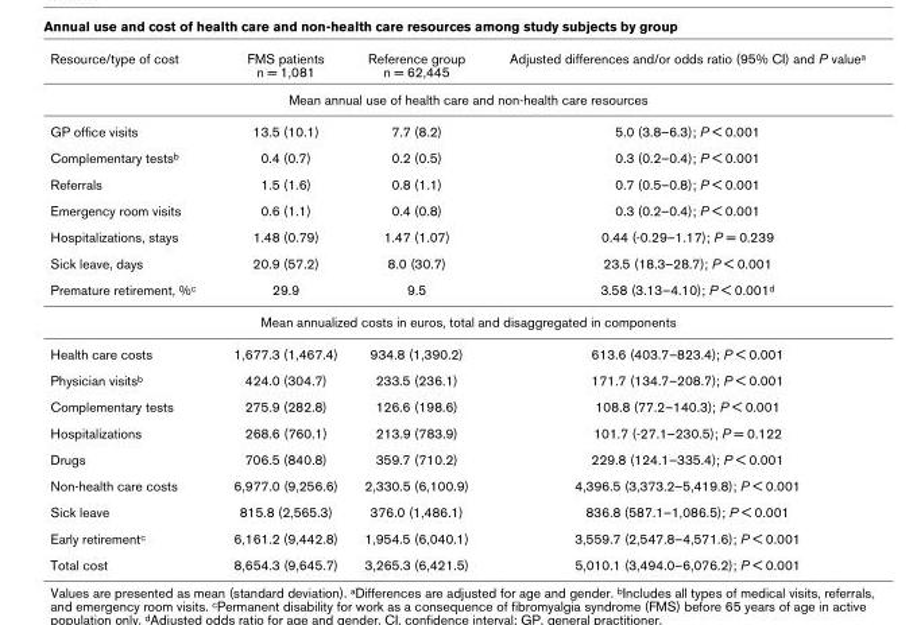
<table><thead><tr><td>Resource/type of cost</td><td>FMS patients n = 1,081</td><td>Reference group n = 62,445</td><td>Adjusted differences and/or odds ratio (95% CI) and P value<sup>a</sup></td></tr></thead><tbody><tr><td colspan="4">Mean annual use of health care and non-health care resources</td></tr><tr><td>GP office visits</td><td>13.5 (10.1)</td><td>7.7 (8.2)</td><td>5.0 (3.8–6.3); P &lt; 0.001</td></tr><tr><td>Complementary tests<sup>b</sup></td><td>0.4 (0.7)</td><td>0.2 (0.5)</td><td>0.3 (0.2–0.4); P &lt; 0.001</td></tr><tr><td>Referrals</td><td>1.5 (1.6)</td><td>0.8 (1.1)</td><td>0.7 (0.5–0.8); P &lt; 0.001</td></tr><tr><td>Emergency room visits</td><td>0.6 (1.1)</td><td>0.4 (0.8)</td><td>0.3 (0.2–0.4); P &lt; 0.001</td></tr><tr><td>Hospitalizations, stays</td><td>1.48 (0.79)</td><td>1.47 (1.07)</td><td>0.44 (-0.29–1.17); P = 0.239</td></tr><tr><td>Sick leave, days</td><td>20.9 (57.2)</td><td>8.0 (30.7)</td><td>23.5 (18.3–28.7); P &lt; 0.001</td></tr><tr><td>Premature retirement, %<sup>c</sup></td><td>29.9</td><td>9.5</td><td>3.58 (3.13–4.10); P &lt; 0.001<sup>d</sup></td></tr><tr><td colspan="4">Mean annualized costs in euros, total and disaggregated in components</td></tr><tr><td>Health care costs</td><td>1,677.3 (1,467.4)</td><td>934.8 (1,390.2)</td><td>613.6 (403.7–823.4); P &lt; 0.001</td></tr><tr><td>Physician visits<sup>b</sup></td><td>424.0 (304.7)</td><td>233.5 (236.1)</td><td>171.7 (134.7–208.7); P &lt; 0.001</td></tr><tr><td>Complementary tests</td><td>275.9 (282.8)</td><td>126.6 (198.6)</td><td>108.8 (77.2–140.3); P &lt; 0.001</td></tr><tr><td>Hospitalizations</td><td>268.6 (760.1)</td><td>213.9 (783.9)</td><td>101.7 (-27.1–230.5); P = 0.122</td></tr><tr><td>Drugs</td><td>706.5 (840.8)</td><td>359.7 (710.2)</td><td>229.8 (124.1–335.4); P &lt; 0.001</td></tr><tr><td>Non-health care costs</td><td>6,977.0 (9,256.6)</td><td>2,330.5 (6,100.9)</td><td>4,396.5 (3,373.2–5,419.8); P &lt; 0.001</td></tr><tr><td>Sick leave</td><td>815.8 (2,565.3)</td><td>376.0 (1,486.1)</td><td>836.8 (587.1–1,086.5); P &lt; 0.001</td></tr><tr><td>Early retirement<sup>c</sup></td><td>6,161.2 (9,442.8)</td><td>1,954.5 (6,040.1)</td><td>3,559.7 (2,547.8–4,571.6); P &lt; 0.001</td></tr><tr><td>Total cost</td><td>8,654.3 (9,645.7)</td><td>3,265.3 (6,421.5)</td><td>5,010.1 (3,494.0–6,076.2); P &lt; 0.001</td></tr></tbody></table>